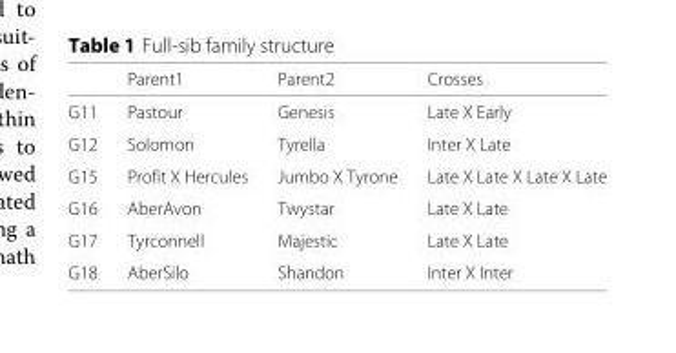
<table><thead><tr><td></td><td>Parent1</td><td>Parent2</td><td>Crosses</td></tr></thead><tbody><tr><td>G11</td><td>Pastour</td><td>Genesis</td><td>Late X Early</td></tr><tr><td>G12</td><td>Solomon</td><td>Tyrella</td><td>Inter X Late</td></tr><tr><td>G15</td><td>Profit X Hercules</td><td>Jumbo X Tyrone</td><td>Late X Late X Late X Late</td></tr><tr><td>G16</td><td>AberAvon</td><td>Twystar</td><td>Late X Late</td></tr><tr><td>G17</td><td>Tyrconnell</td><td>Majestic</td><td>Late X Late</td></tr><tr><td>G18</td><td>AberSilo</td><td>Shandon</td><td>Inter X Inter</td></tr></tbody></table>